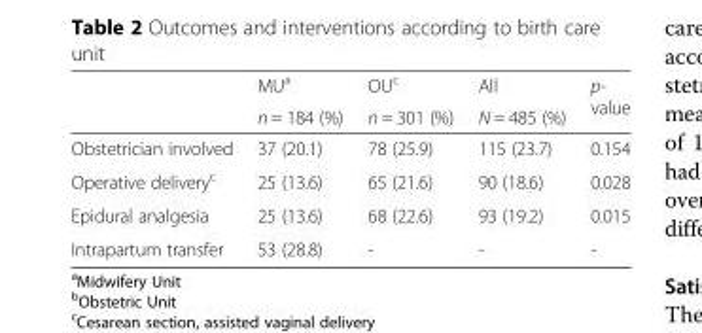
<table><thead><tr><td rowspan="2"></td><td rowspan="2">MU<sup>a</sup> n = 184 (%)</td><td rowspan="2">OU<sup>c</sup> n = 301 (%)</td><td rowspan="2">All N = 485 (%)</td><td rowspan="2">p- value</td></tr><tr></tr></thead><tbody><tr><td>Obstetrician involved</td><td>37 (20.1)</td><td>78 (25.9)</td><td>115 (23.7)</td><td>0.154</td></tr><tr><td>Operative delivery<sup>c</sup></td><td>25 (13.6)</td><td>65 (21.6)</td><td>90 (18.6)</td><td>0.028</td></tr><tr><td>Epidural analgesia</td><td>25 (13.6)</td><td>68 (22.6)</td><td>93 (19.2)</td><td>0.015</td></tr><tr><td>Intrapartum transfer</td><td>53 (28.8)</td><td>-</td><td>-</td><td>-</td></tr></tbody></table>